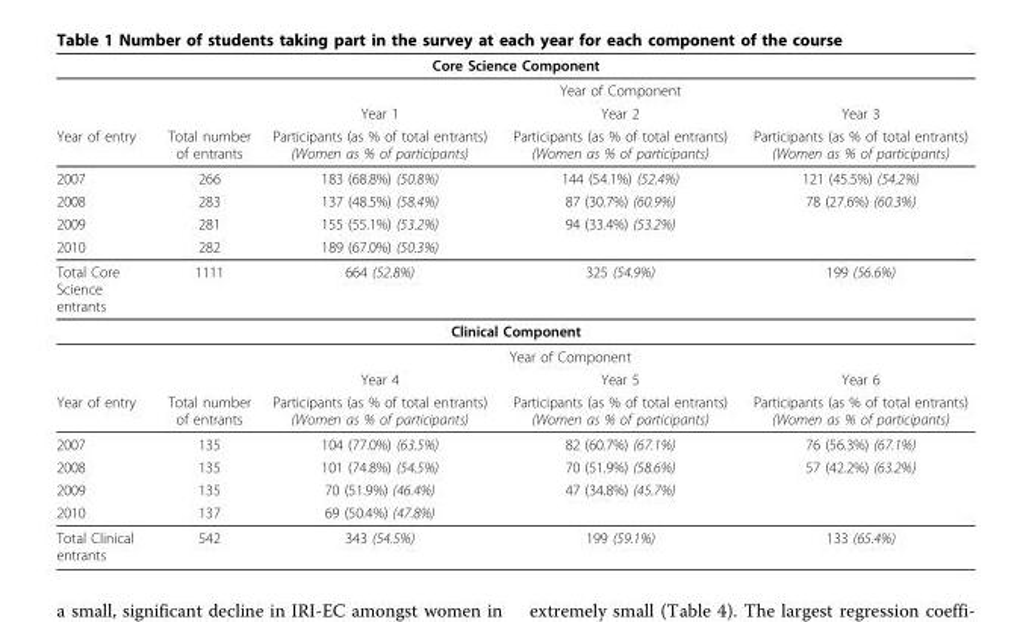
<table><thead><tr><td colspan="5">Core Science Component</td></tr><tr><td rowspan="2"></td><td rowspan="2"></td><td colspan="3">Year of Component</td></tr><tr><td>Year 1</td><td>Year 2</td><td>Year 3</td></tr></thead><tbody><tr><td>Year of entry</td><td>Total number of entrants</td><td>Participants (as % of total entrants) (Women as % of participants)</td><td>Participants (as % of total entrants) (Women as % of participants)</td><td>Participants (as % of total entrants) (Women as % of participants)</td></tr><tr><td>2007</td><td>266</td><td>183 (68.8%) (50.8%)</td><td>144 (54.1%) (52.4%)</td><td>121 (45.5%) (54.2%)</td></tr><tr><td>2008</td><td>283</td><td>137 (48.5%) (58.4%)</td><td>87 (30.7%) (60.9%)</td><td>78 (27.6%) (60.3%)</td></tr><tr><td>2009</td><td>281</td><td>155 (55.1%) (53.2%)</td><td>94 (33.4%) (53.2%)</td><td></td></tr><tr><td>2010</td><td>282</td><td>189 (67.0%) (50.3%)</td><td></td><td></td></tr><tr><td>Total Core Science entrants</td><td>1111</td><td>664 (52.8%)</td><td>325 (54.9%)</td><td>199 (56.6%)</td></tr><tr><td colspan="5">Clinical Component</td></tr><tr><td></td><td colspan="4">Year of Component</td></tr><tr><td></td><td></td><td>Year 4</td><td>Year 5</td><td>Year 6</td></tr><tr><td>Year of entry</td><td>Total number of entrants</td><td>Participants (as % of total entrants) (Women as % of participants)</td><td>Participants (as % of total entrants) (Women as % of participants)</td><td>Participants (as % of total entrants) (Women as % of participants)</td></tr><tr><td>2007</td><td>135</td><td>104 (77.0%) (63.5%)</td><td>82 (60.7%) (67.1%)</td><td>76 (56.3%) (67.1%)</td></tr><tr><td>2008</td><td>135</td><td>101 (74.8%) (54.5%)</td><td>70 (51.9%) (58.6%)</td><td>57 (42.2%) (63.2%)</td></tr><tr><td>2009</td><td>135</td><td>70 (51.9%) (46.4%)</td><td>47 (34.8%) (45.7%)</td><td></td></tr><tr><td>2010</td><td>137</td><td>69 (50.4%) (47.8%)</td><td></td><td></td></tr><tr><td>Total Clinical entrants</td><td>542</td><td>343 (54.5%)</td><td>199 (59.1%)</td><td>133 (65.4%)</td></tr></tbody></table>